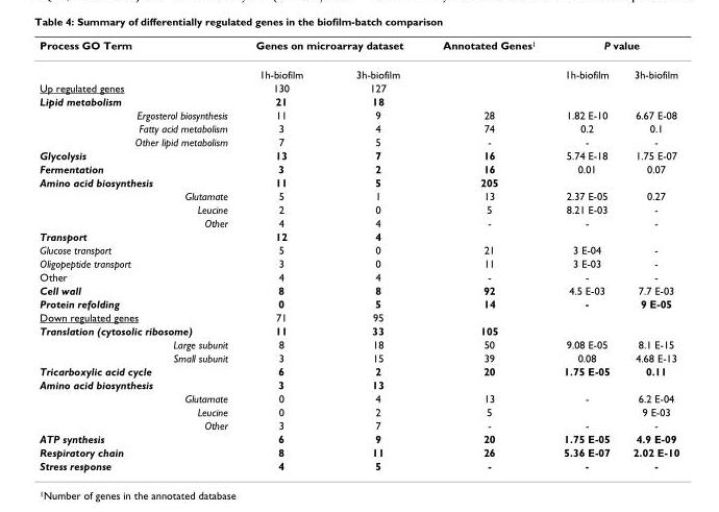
<table><thead><tr><td rowspan="2">Process GO Term</td><td colspan="2">Genes on microarray dataset</td><td rowspan="2">Annotated Genes<sup>1</sup></td><td colspan="2">P value</td></tr><tr><td>1h-biofilm</td><td>3h-biofilm</td><td>1h-biofilm</td><td>3h-biofilm</td></tr></thead><tbody><tr><td>Up regulated genes</td><td>130</td><td>127</td><td></td><td></td><td></td></tr><tr><td>Lipid metabolism</td><td>21</td><td>18</td><td></td><td></td><td></td></tr><tr><td>Ergosterol biosynthesis</td><td>11</td><td>9</td><td>28</td><td>1.82 E-10</td><td>6.67 E-08</td></tr><tr><td>Fatty acid metabolism</td><td>3</td><td>4</td><td>74</td><td>0.2</td><td>0.1</td></tr><tr><td>Other lipid metabolism</td><td>7</td><td>5</td><td>-</td><td>-</td><td>-</td></tr><tr><td>Glycolysis</td><td>13</td><td>7</td><td>16</td><td>5.74 E-18</td><td>1.75 E-07</td></tr><tr><td>Fermentation</td><td>3</td><td>2</td><td>16</td><td>0.01</td><td>0.07</td></tr><tr><td>Amino acid biosynthesis</td><td>11</td><td>5</td><td>205</td><td></td><td></td></tr><tr><td>Glutamate</td><td>5</td><td>1</td><td>13</td><td>2.37 E-05</td><td>0.27</td></tr><tr><td>Leucine</td><td>2</td><td>0</td><td>5</td><td>8.21 E-03</td><td>-</td></tr><tr><td>Other</td><td>4</td><td>4</td><td>-</td><td>-</td><td>-</td></tr><tr><td>Transport</td><td>12</td><td>4</td><td></td><td></td><td></td></tr><tr><td>Glucose transport</td><td>5</td><td>0</td><td>21</td><td>3 E-04</td><td>-</td></tr><tr><td>Oligopeptide transport</td><td>3</td><td>0</td><td>11</td><td>3 E-03</td><td>-</td></tr><tr><td>Other</td><td>4</td><td>4</td><td>-</td><td>-</td><td>-</td></tr><tr><td>Cell wall</td><td>8</td><td>8</td><td>92</td><td>4.5 E-03</td><td>7.7 E-03</td></tr><tr><td>Protein refolding</td><td>0</td><td>5</td><td>14</td><td>-</td><td>9 E-05</td></tr><tr><td>Down regulated genes</td><td>71</td><td>95</td><td></td><td></td><td></td></tr><tr><td>Translation (cytosolic ribosome)</td><td>11</td><td>33</td><td>105</td><td></td><td></td></tr><tr><td>Large subunit</td><td>8</td><td>18</td><td>50</td><td>9.08 E-05</td><td>8.1 E-15</td></tr><tr><td>Small subunit</td><td>3</td><td>15</td><td>39</td><td>0.08</td><td>4.68 E-13</td></tr><tr><td>Tricarboxylic acid cycle</td><td>6</td><td>2</td><td>20</td><td>1.75 E-05</td><td>0.11</td></tr><tr><td>Amino acid biosynthesis</td><td>3</td><td>13</td><td></td><td></td><td></td></tr><tr><td>Glutamate</td><td>0</td><td>4</td><td>13</td><td>-</td><td>6.2 E-04</td></tr><tr><td>Leucine</td><td>0</td><td>2</td><td>5</td><td></td><td>9 E-03</td></tr><tr><td>Other</td><td>3</td><td>7</td><td>-</td><td>-</td><td>-</td></tr><tr><td>ATP synthesis</td><td>6</td><td>9</td><td>20</td><td>1.75 E-05</td><td>4.9 E-09</td></tr><tr><td>Respiratory chain</td><td>8</td><td>11</td><td>26</td><td>5.36 E-07</td><td>2.02 E-10</td></tr><tr><td>Stress response</td><td>4</td><td>5</td><td>-</td><td>-</td><td>-</td></tr></tbody></table>